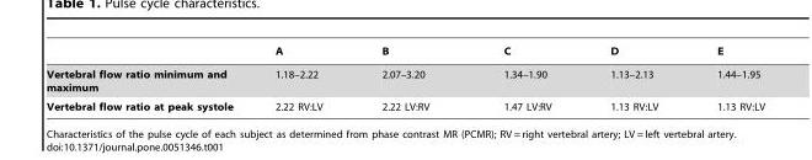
<table><thead><tr><td></td><td>A</td><td>B</td><td>C</td><td>D</td><td>E</td></tr></thead><tbody><tr><td>Vertebral flow ratio minimum and maximum</td><td>1.18–2.22</td><td>2.07–3.20</td><td>1.34–1.90</td><td>1.13–2.13</td><td>1.44–1.95</td></tr><tr><td>Vertebral flow ratio at peak systole</td><td>2.22 RV:LV</td><td>2.22 LV:RV</td><td>1.47 LV:RV</td><td>1.13 RV:LV</td><td>1.13 RV:LV</td></tr></tbody></table>